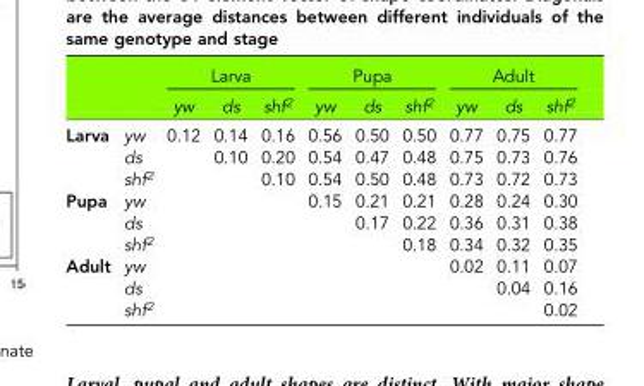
<table><thead><tr><td rowspan="2"></td><td rowspan="2"></td><td colspan="3">Larva</td><td colspan="3">Pupa</td><td colspan="3">Adult</td></tr><tr><td>yw</td><td>ds</td><td>shf<sup>2</sup></td><td>yw</td><td>ds</td><td>shf<sup>2</sup></td><td>yw</td><td>ds</td><td>shf<sup>2</sup></td></tr></thead><tbody><tr><td rowspan="3">Larva</td><td>yw</td><td>0.12</td><td>0.14</td><td>0.16</td><td>0.56</td><td>0.50</td><td>0.50</td><td>0.77</td><td>0.75</td><td>0.77</td></tr><tr><td>ds</td><td></td><td>0.10</td><td>0.20</td><td>0.54</td><td>0.47</td><td>0.48</td><td>0.75</td><td>0.73</td><td>0.76</td></tr><tr><td>shf<sup>2</sup></td><td></td><td></td><td>0.10</td><td>0.54</td><td>0.50</td><td>0.48</td><td>0.73</td><td>0.72</td><td>0.73</td></tr><tr><td rowspan="3">Pupa</td><td>yw</td><td></td><td></td><td></td><td>0.15</td><td>0.21</td><td>0.21</td><td>0.28</td><td>0.24</td><td>0.30</td></tr><tr><td>ds</td><td></td><td></td><td></td><td></td><td>0.17</td><td>0.22</td><td>0.36</td><td>0.31</td><td>0.38</td></tr><tr><td>shf<sup>2</sup></td><td></td><td></td><td></td><td></td><td></td><td>0.18</td><td>0.34</td><td>0.32</td><td>0.35</td></tr><tr><td rowspan="3">Adult</td><td>yw</td><td></td><td></td><td></td><td></td><td></td><td></td><td>0.02</td><td>0.11</td><td>0.07</td></tr><tr><td>ds</td><td></td><td></td><td></td><td></td><td></td><td></td><td></td><td>0.04</td><td>0.16</td></tr><tr><td>shf<sup>2</sup></td><td></td><td></td><td></td><td></td><td></td><td></td><td></td><td></td><td>0.02</td></tr></tbody></table>